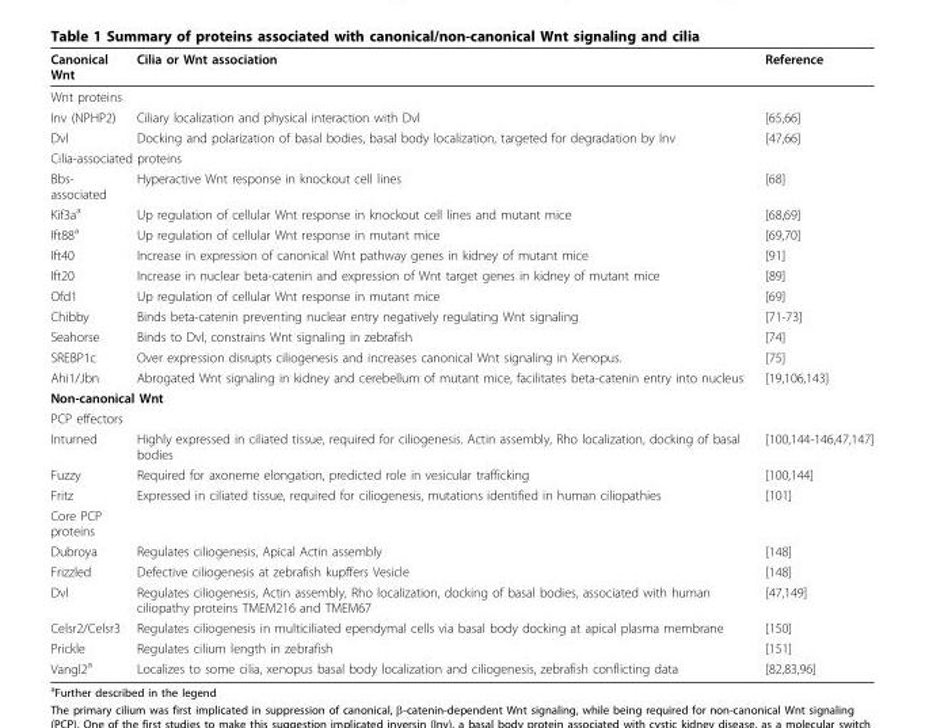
<table><thead><tr><td>Canonical Wnt</td><td>Cilia or Wnt association</td><td>Reference</td></tr></thead><tbody><tr><td colspan="3">Wnt proteins</td></tr><tr><td>Inv (NPHP2)</td><td>Ciliary localization and physical interaction with Dvl</td><td>[65,66]</td></tr><tr><td>Dvl</td><td>Docking and polarization of basal bodies, basal body localization, targeted for degradation by Inv</td><td>[47,66]</td></tr><tr><td colspan="3">Cilia-associated proteins</td></tr><tr><td>Bbs- associated</td><td>Hyperactive Wnt response in knockout cell lines</td><td>[68]</td></tr><tr><td>Kif3a<sup>a</sup></td><td>Up regulation of cellular Wnt response in knockout cell lines and mutant mice</td><td>[68,69]</td></tr><tr><td>Ift88<sup>a</sup></td><td>Up regulation of cellular Wnt response in mutant mice</td><td>[69,70]</td></tr><tr><td>Ift40</td><td>Increase in expression of canonical Wnt pathway genes in kidney of mutant mice</td><td>[91]</td></tr><tr><td>Ift20</td><td>Increase in nuclear beta-catenin and expression of Wnt target genes in kidney of mutant mice</td><td>[89]</td></tr><tr><td>Ofd1</td><td>Up regulation of cellular Wnt response in mutant mice</td><td>[69]</td></tr><tr><td>Chibby</td><td>Binds beta-catenin preventing nuclear entry negatively regulating Wnt signaling</td><td>[71-73]</td></tr><tr><td>Seahorse</td><td>Binds to Dvl, constrains Wnt signaling in zebrafish</td><td>[74]</td></tr><tr><td>SREBP1c</td><td>Over expression disrupts ciliogenesis and increases canonical Wnt signaling in Xenopus.</td><td>[75]</td></tr><tr><td>Ahi1/Jbn</td><td>Abrogated Wnt signaling in kidney and cerebellum of mutant mice, facilitates beta-catenin entry into nucleus</td><td>[19,106,143]</td></tr><tr><td colspan="3">Non-canonical Wnt</td></tr><tr><td colspan="3">PCP effectors</td></tr><tr><td>Inturned</td><td>Highly expressed in ciliated tissue, required for ciliogenesis. Actin assembly, Rho localization, docking of basal bodies</td><td>[100,144-146,47,147]</td></tr><tr><td>Fuzzy</td><td>Required for axoneme elongation, predicted role in vesicular trafficking</td><td>[100,144]</td></tr><tr><td>Fritz</td><td>Expressed in ciliated tissue, required for ciliogenesis, mutations identified in human ciliopathies</td><td>[101]</td></tr><tr><td colspan="3">Core PCP proteins</td></tr><tr><td>Dubroya</td><td>Regulates ciliogenesis, Apical Actin assembly</td><td>[148]</td></tr><tr><td>Frizzled</td><td>Defective ciliogenesis at zebrafish kupffers Vesicle</td><td>[148]</td></tr><tr><td>Dvl</td><td>Regulates ciliogenesis, Actin assembly, Rho localization, docking of basal bodies, associated with human ciliopathy proteins TMEM216 and TMEM67</td><td>[47,149]</td></tr><tr><td>Celsr2/Celsr3</td><td>Regulates ciliogenesis in multiciliated ependymal cells via basal body docking at apical plasma membrane</td><td>[150]</td></tr><tr><td>Prickle</td><td>Regulates cilium length in zebrafish</td><td>[151]</td></tr><tr><td>Vangl2<sup>a</sup></td><td>Localizes to some cilia, xenopus basal body localization and ciliogenesis, zebrafish conflicting data</td><td>[82,83,96]</td></tr></tbody></table>